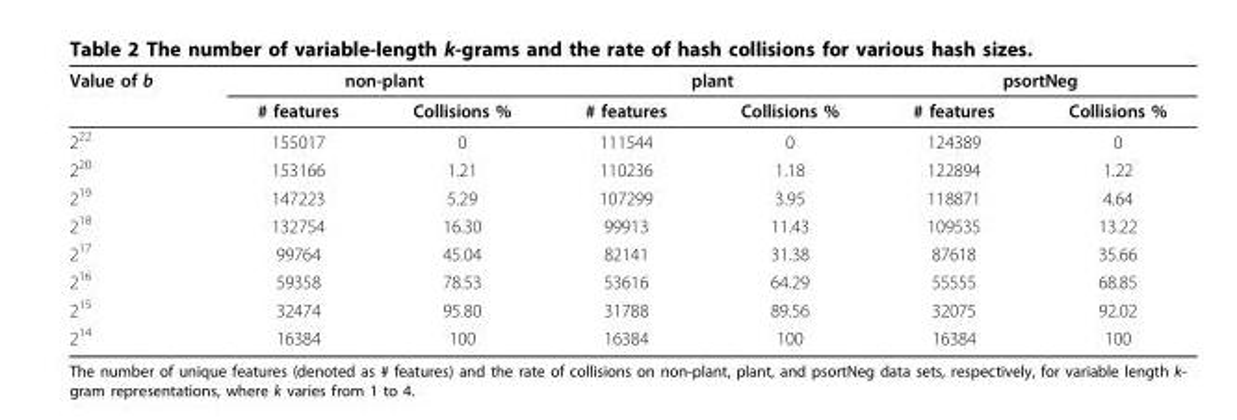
<table><thead><tr><td rowspan="2">Value of b</td><td colspan="2">non-plant</td><td colspan="2">plant</td><td colspan="2">psortNeg</td></tr><tr><td># features</td><td>Collisions %</td><td># features</td><td>Collisions %</td><td># features</td><td>Collisions %</td></tr></thead><tbody><tr><td>2<sup>22</sup></td><td>155017</td><td>0</td><td>111544</td><td>0</td><td>124389</td><td>0</td></tr><tr><td>2<sup>20</sup></td><td>153166</td><td>1.21</td><td>110236</td><td>1.18</td><td>122894</td><td>1.22</td></tr><tr><td>2<sup>19</sup></td><td>147223</td><td>5.29</td><td>107299</td><td>3.95</td><td>118871</td><td>4.64</td></tr><tr><td>2<sup>18</sup></td><td>132754</td><td>16.30</td><td>99913</td><td>11.43</td><td>109535</td><td>13.22</td></tr><tr><td>2<sup>17</sup></td><td>99764</td><td>45.04</td><td>82141</td><td>31.38</td><td>87618</td><td>35.66</td></tr><tr><td>2<sup>16</sup></td><td>59358</td><td>78.53</td><td>53616</td><td>64.29</td><td>55555</td><td>68.85</td></tr><tr><td>2<sup>15</sup></td><td>32474</td><td>95.80</td><td>31788</td><td>89.56</td><td>32075</td><td>92.02</td></tr><tr><td>2<sup>14</sup></td><td>16384</td><td>100</td><td>16384</td><td>100</td><td>16384</td><td>100</td></tr></tbody></table>